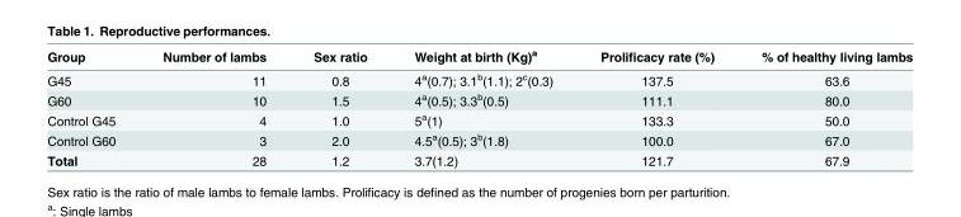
<table><thead><tr><td>Group</td><td>Number of lambs</td><td>Sex ratio</td><td>Weight at birth (Kg)<sup>a</sup></td><td>Prolificacy rate (%)</td><td>% of healthy living lambs</td></tr></thead><tbody><tr><td>G45</td><td>11</td><td>0.8</td><td>4<sup>a</sup>(0.7); 3.1<sup>b</sup>(1.1); 2<sup>c</sup>(0.3)</td><td>137.5</td><td>63.6</td></tr><tr><td>G60</td><td>10</td><td>1.5</td><td>4<sup>a</sup>(0.5); 3.3<sup>b</sup>(0.5)</td><td>111.1</td><td>80.0</td></tr><tr><td>Control G45</td><td>4</td><td>1.0</td><td>5<sup>a</sup>(1)</td><td>133.3</td><td>50.0</td></tr><tr><td>Control G60</td><td>3</td><td>2.0</td><td>4.5<sup>a</sup>(0.5); 3<sup>b</sup>(1.8)</td><td>100.0</td><td>67.0</td></tr><tr><td>Total</td><td>28</td><td>1.2</td><td>3.7(1.2)</td><td>121.7</td><td>67.9</td></tr></tbody></table>